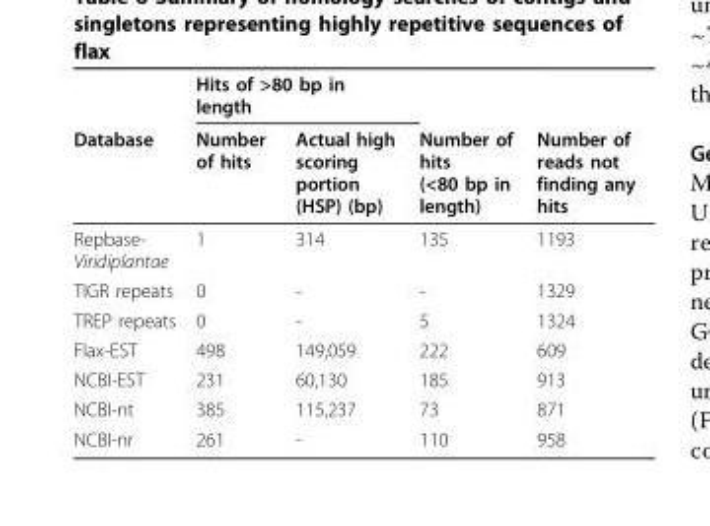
<table><thead><tr><td rowspan="2">Database</td><td colspan="2">Hits of &gt;80 bp in length</td><td rowspan="2">Number of hits (&lt;80 bp in length)</td><td rowspan="2">Number of reads not finding any hits</td></tr><tr><td>Number of hits</td><td>Actual high scoring portion (HSP) (bp)</td></tr></thead><tbody><tr><td>Repbase- Viridiplantae</td><td>1</td><td>314</td><td>135</td><td>1193</td></tr><tr><td>TIGR repeats</td><td>0</td><td>-</td><td>-</td><td>1329</td></tr><tr><td>TREP repeats</td><td>0</td><td>-</td><td>5</td><td>1324</td></tr><tr><td>Flax-EST</td><td>498</td><td>149,059</td><td>222</td><td>609</td></tr><tr><td>NCBI-EST</td><td>231</td><td>60,130</td><td>185</td><td>913</td></tr><tr><td>NCBI-nt</td><td>385</td><td>115,237</td><td>73</td><td>871</td></tr><tr><td>NCBI-nr</td><td>261</td><td>-</td><td>110</td><td>958</td></tr></tbody></table>